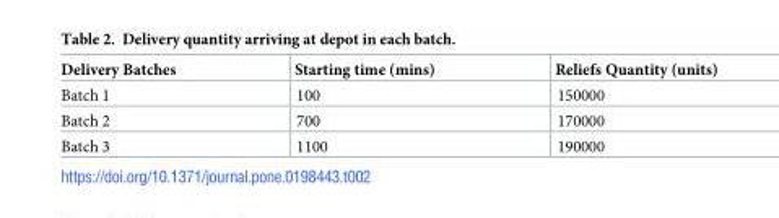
<table><thead><tr><td>Delivery Batches</td><td>Starting time (mins)</td><td>Reliefs Quantity (units)</td></tr></thead><tbody><tr><td>Batch 1</td><td>100</td><td>150000</td></tr><tr><td>Batch 2</td><td>700</td><td>170000</td></tr><tr><td>Batch 3</td><td>1100</td><td>190000</td></tr></tbody></table>